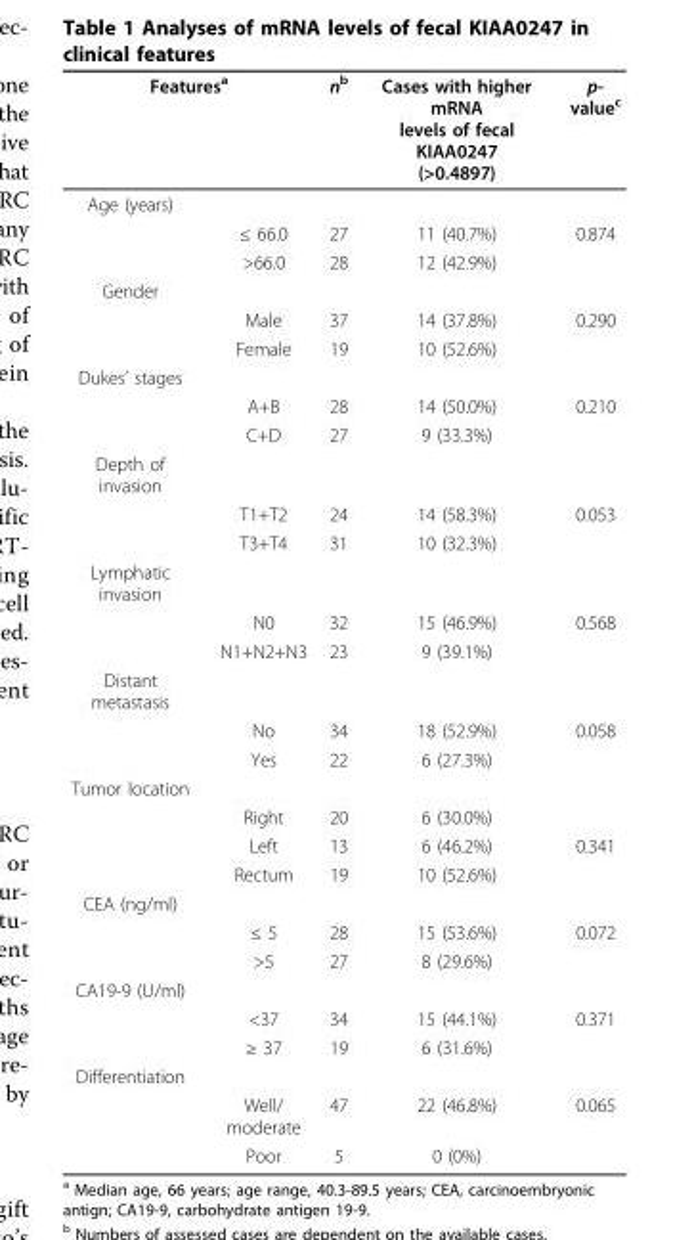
<table><thead><tr><td colspan="2">Features<sup>a</sup></td><td rowspan="2">n<sup>b</sup></td><td rowspan="2">Cases with higher mRNA levels of fecal KIAA0247 (&gt;0.4897)</td><td rowspan="2">p- value<sup>c</sup></td></tr><tr><td>Age (years)</td><td></td></tr></thead><tbody><tr><td></td><td>≤ 66.0</td><td>27</td><td>11 (40.7%)</td><td>0.874</td></tr><tr><td></td><td>&gt;66.0</td><td>28</td><td>12 (42.9%)</td><td></td></tr><tr><td colspan="5">Gender</td></tr><tr><td></td><td>Male</td><td>37</td><td>14 (37.8%)</td><td>0.290</td></tr><tr><td></td><td>Female</td><td>19</td><td>10 (52.6%)</td><td></td></tr><tr><td colspan="5">Dukes’ stages</td></tr><tr><td></td><td>A+B</td><td>28</td><td>14 (50.0%)</td><td>0.210</td></tr><tr><td></td><td>C+D</td><td>27</td><td>9 (33.3%)</td><td></td></tr><tr><td colspan="5">Depth of invasion</td></tr><tr><td></td><td>T1+T2</td><td>24</td><td>14 (58.3%)</td><td>0.053</td></tr><tr><td></td><td>T3+T4</td><td>31</td><td>10 (32.3%)</td><td></td></tr><tr><td colspan="5">Lymphatic invasion</td></tr><tr><td></td><td>N0</td><td>32</td><td>15 (46.9%)</td><td>0.568</td></tr><tr><td></td><td>N1+N2+N3</td><td>23</td><td>9 (39.1%)</td><td></td></tr><tr><td colspan="5">Distant metastasis</td></tr><tr><td></td><td>No</td><td>34</td><td>18 (52.9%)</td><td>0.058</td></tr><tr><td></td><td>Yes</td><td>22</td><td>6 (27.3%)</td><td></td></tr><tr><td colspan="5">Tumor location</td></tr><tr><td></td><td>Right</td><td>20</td><td>6 (30.0%)</td><td></td></tr><tr><td></td><td>Left</td><td>13</td><td>6 (46.2%)</td><td>0.341</td></tr><tr><td></td><td>Rectum</td><td>19</td><td>10 (52.6%)</td><td></td></tr><tr><td colspan="5">CEA (ng/ml)</td></tr><tr><td></td><td>≤ 5</td><td>28</td><td>15 (53.6%)</td><td>0.072</td></tr><tr><td></td><td>&gt;5</td><td>27</td><td>8 (29.6%)</td><td></td></tr><tr><td colspan="5">CA19-9 (U/ml)</td></tr><tr><td></td><td>&lt;37</td><td>34</td><td>15 (44.1%)</td><td>0.371</td></tr><tr><td></td><td>≥ 37</td><td>19</td><td>6 (31.6%)</td><td></td></tr><tr><td colspan="5">Differentiation</td></tr><tr><td></td><td>Well/ moderate</td><td>47</td><td>22 (46.8%)</td><td>0.065</td></tr><tr><td></td><td>Poor</td><td>5</td><td>0 (0%)</td><td></td></tr></tbody></table>